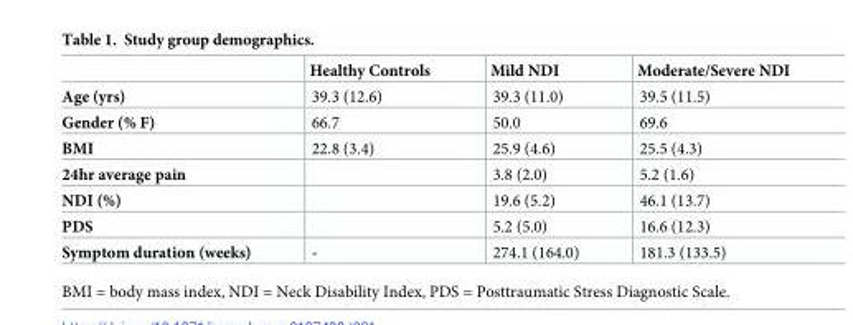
<table><thead><tr><td></td><td>Healthy Controls</td><td>Mild NDI</td><td>Moderate/Severe NDI</td></tr></thead><tbody><tr><td>Age (yrs)</td><td>39.3 (12.6)</td><td>39.3 (11.0)</td><td>39.5 (11.5)</td></tr><tr><td>Gender (% F)</td><td>66.7</td><td>50.0</td><td>69.6</td></tr><tr><td>BMI</td><td>22.8 (3.4)</td><td>25.9 (4.6)</td><td>25.5 (4.3)</td></tr><tr><td>24hr average pain</td><td></td><td>3.8 (2.0)</td><td>5.2 (1.6)</td></tr><tr><td>NDI (%)</td><td></td><td>19.6 (5.2)</td><td>46.1 (13.7)</td></tr><tr><td>PDS</td><td></td><td>5.2 (5.0)</td><td>16.6 (12.3)</td></tr><tr><td>Symptom duration (weeks)</td><td>-</td><td>274.1 (164.0)</td><td>181.3 (133.5)</td></tr></tbody></table>